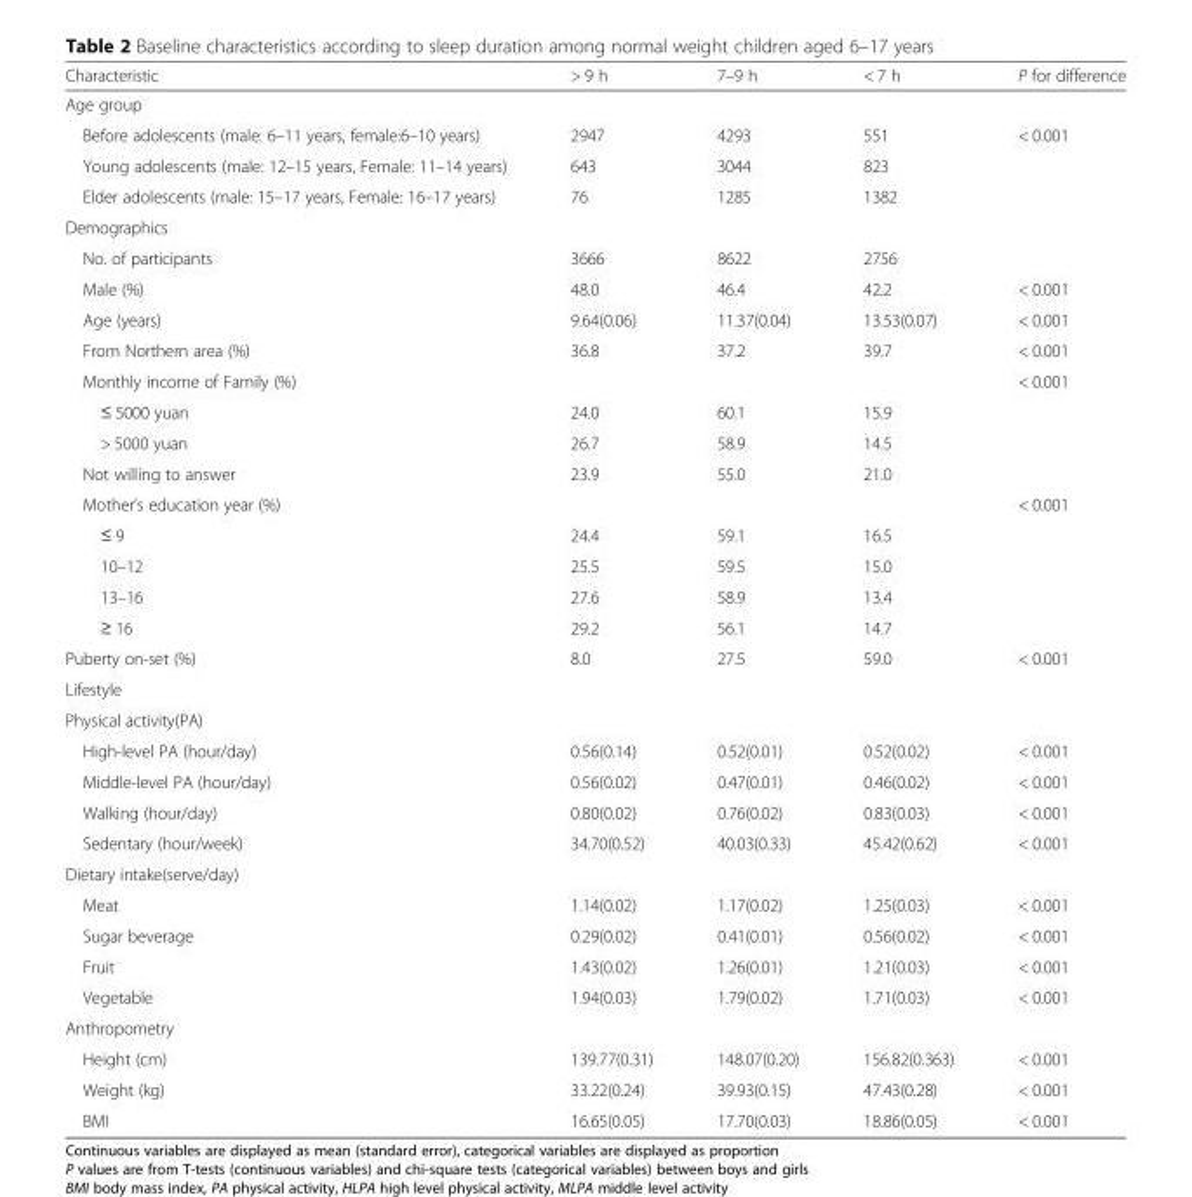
<table><thead><tr><td>Characteristic</td><td>&gt; 9 h</td><td>7–9 h</td><td>&lt; 7 h</td><td>P for difference</td></tr></thead><tbody><tr><td colspan="5">Age group</td></tr><tr><td>Before adolescents (male: 6–11 years, female:6–10 years)</td><td>2947</td><td>4293</td><td>551</td><td>&lt; 0.001</td></tr><tr><td>Young adolescents (male: 12–15 years, Female: 11–14 years)</td><td>643</td><td>3044</td><td>823</td><td></td></tr><tr><td>Elder adolescents (male: 15–17 years, Female: 16–17 years)</td><td>76</td><td>1285</td><td>1382</td><td></td></tr><tr><td colspan="5">Demographics</td></tr><tr><td>No. of participants</td><td>3666</td><td>8622</td><td>2756</td><td></td></tr><tr><td>Male (%)</td><td>48.0</td><td>46.4</td><td>42.2</td><td>&lt; 0.001</td></tr><tr><td>Age (years)</td><td>9.64(0.06)</td><td>11.37(0.04)</td><td>13.53(0.07)</td><td>&lt; 0.001</td></tr><tr><td>From Northern area (%)</td><td>36.8</td><td>37.2</td><td>39.7</td><td>&lt; 0.001</td></tr><tr><td>Monthly income of Family (%)</td><td></td><td></td><td></td><td>&lt; 0.001</td></tr><tr><td>≤ 5000 yuan</td><td>24.0</td><td>60.1</td><td>15.9</td><td></td></tr><tr><td>&gt; 5000 yuan</td><td>26.7</td><td>58.9</td><td>14.5</td><td></td></tr><tr><td>Not willing to answer</td><td>23.9</td><td>55.0</td><td>21.0</td><td></td></tr><tr><td>Mother’s education year (%)</td><td></td><td></td><td></td><td>&lt; 0.001</td></tr><tr><td>≤ 9</td><td>24.4</td><td>59.1</td><td>16.5</td><td></td></tr><tr><td>10–12</td><td>25.5</td><td>59.5</td><td>15.0</td><td></td></tr><tr><td>13–16</td><td>27.6</td><td>58.9</td><td>13.4</td><td></td></tr><tr><td>≥ 16</td><td>29.2</td><td>56.1</td><td>14.7</td><td></td></tr><tr><td>Puberty on-set (%)</td><td>8.0</td><td>27.5</td><td>59.0</td><td>&lt; 0.001</td></tr><tr><td colspan="5">Lifestyle</td></tr><tr><td colspan="5">Physical activity(PA)</td></tr><tr><td>High-level PA (hour/day)</td><td>0.56(0.14)</td><td>0.52(0.01)</td><td>0.52(0.02)</td><td>&lt; 0.001</td></tr><tr><td>Middle-level PA (hour/day)</td><td>0.56(0.02)</td><td>0.47(0.01)</td><td>0.46(0.02)</td><td>&lt; 0.001</td></tr><tr><td>Walking (hour/day)</td><td>0.80(0.02)</td><td>0.76(0.02)</td><td>0.83(0.03)</td><td>&lt; 0.001</td></tr><tr><td>Sedentary (hour/week)</td><td>34.70(0.52)</td><td>40.03(0.33)</td><td>45.42(0.62)</td><td>&lt; 0.001</td></tr><tr><td colspan="5">Dietary intake(serve/day)</td></tr><tr><td>Meat</td><td>1.14(0.02)</td><td>1.17(0.02)</td><td>1.25(0.03)</td><td>&lt; 0.001</td></tr><tr><td>Sugar beverage</td><td>0.29(0.02)</td><td>0.41(0.01)</td><td>0.56(0.02)</td><td>&lt; 0.001</td></tr><tr><td>Fruit</td><td>1.43(0.02)</td><td>1.26(0.01)</td><td>1.21(0.03)</td><td>&lt; 0.001</td></tr><tr><td>Vegetable</td><td>1.94(0.03)</td><td>1.79(0.02)</td><td>1.71(0.03)</td><td>&lt; 0.001</td></tr><tr><td colspan="5">Anthropometry</td></tr><tr><td>Height (cm)</td><td>139.77(0.31)</td><td>148.07(0.20)</td><td>156.82(0.363)</td><td>&lt; 0.001</td></tr><tr><td>Weight (kg)</td><td>33.22(0.24)</td><td>39.93(0.15)</td><td>47.43(0.28)</td><td>&lt; 0.001</td></tr><tr><td>BMI</td><td>16.65(0.05)</td><td>17.70(0.03)</td><td>18.86(0.05)</td><td>&lt; 0.001</td></tr></tbody></table>